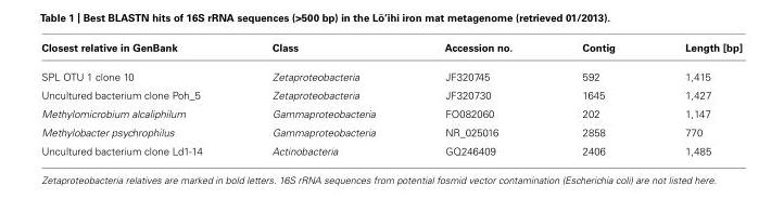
<table><thead><tr><td>Closest relative in GenBank</td><td>Class</td><td>Accession no.</td><td>Contig</td><td>Length [bp]</td></tr></thead><tbody><tr><td>SPL OTU 1 clone 10</td><td>Zetaproteobacteria</td><td>JF320745</td><td>592</td><td>1,415</td></tr><tr><td>Uncultured bacterium clone Poh_5</td><td>Zetaproteobacteria</td><td>JF320730</td><td>1645</td><td>1,427</td></tr><tr><td>Methylomicrobium alcaliphilum</td><td>Gammaproteobacteria</td><td>FO082060</td><td>202</td><td>1,147</td></tr><tr><td>Methylobacter psychrophilus</td><td>Gammaproteobacteria</td><td>NR_025016</td><td>2858</td><td>770</td></tr><tr><td>Uncultured bacterium clone Ld1-14</td><td>Actinobacteria</td><td>GQ246409</td><td>2406</td><td>1,485</td></tr></tbody></table>